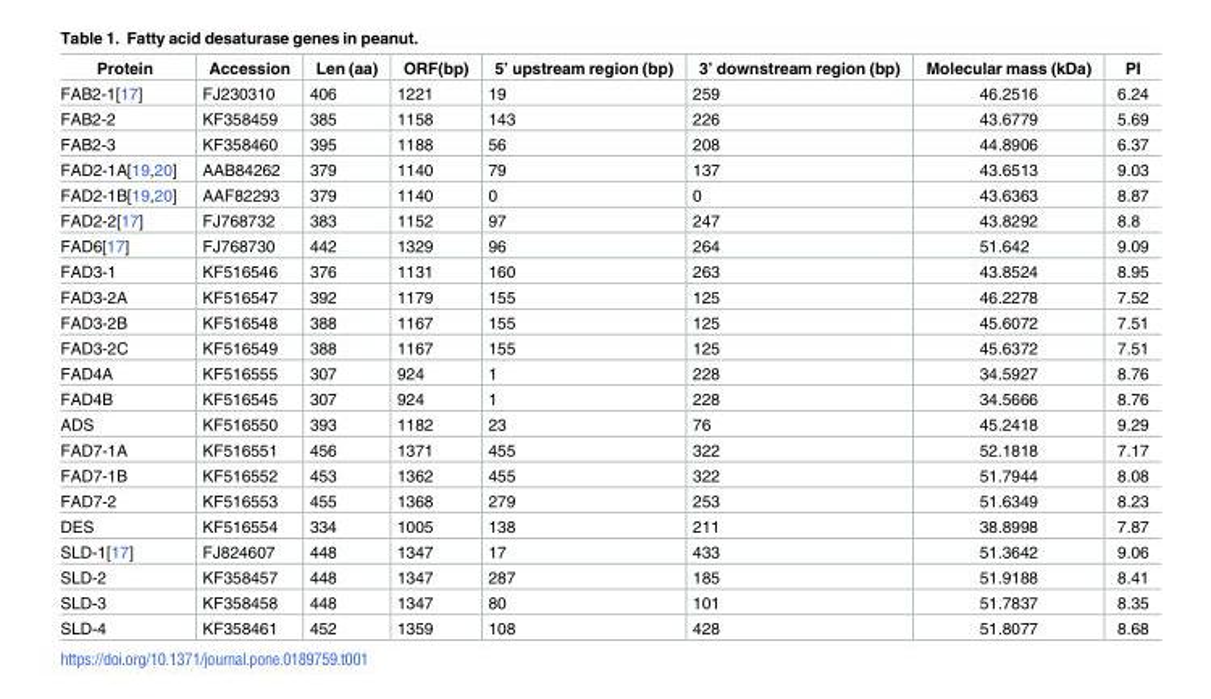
<table><thead><tr><td>Protein</td><td>Accession</td><td>Len (aa)</td><td>ORF(bp)</td><td>5’ upstream region (bp)</td><td>3’ downstream region (bp)</td><td>Molecular mass (kDa)</td><td>PI</td></tr></thead><tbody><tr><td>FAB2-1[17]</td><td>FJ230310</td><td>406</td><td>1221</td><td>19</td><td>259</td><td>46.2516</td><td>6.24</td></tr><tr><td>FAB2-2</td><td>KF358459</td><td>385</td><td>1158</td><td>143</td><td>226</td><td>43.6779</td><td>5.69</td></tr><tr><td>FAB2-3</td><td>KF358460</td><td>395</td><td>1188</td><td>56</td><td>208</td><td>44.8906</td><td>6.37</td></tr><tr><td>FAD2-1A[19,20]</td><td>AAB84262</td><td>379</td><td>1140</td><td>79</td><td>137</td><td>43.6513</td><td>9.03</td></tr><tr><td>FAD2-1B[19,20]</td><td>AAF82293</td><td>379</td><td>1140</td><td>0</td><td>0</td><td>43.6363</td><td>8.87</td></tr><tr><td>FAD2-2[17]</td><td>FJ768732</td><td>383</td><td>1152</td><td>97</td><td>247</td><td>43.8292</td><td>8.8</td></tr><tr><td>FAD6[17]</td><td>FJ768730</td><td>442</td><td>1329</td><td>96</td><td>264</td><td>51.642</td><td>9.09</td></tr><tr><td>FAD3-1</td><td>KF516546</td><td>376</td><td>1131</td><td>160</td><td>263</td><td>43.8524</td><td>8.95</td></tr><tr><td>FAD3-2A</td><td>KF516547</td><td>392</td><td>1179</td><td>155</td><td>125</td><td>46.2278</td><td>7.52</td></tr><tr><td>FAD3-2B</td><td>KF516548</td><td>388</td><td>1167</td><td>155</td><td>125</td><td>45.6072</td><td>7.51</td></tr><tr><td>FAD3-2C</td><td>KF516549</td><td>388</td><td>1167</td><td>155</td><td>125</td><td>45.6372</td><td>7.51</td></tr><tr><td>FAD4A</td><td>KF516555</td><td>307</td><td>924</td><td>1</td><td>228</td><td>34.5927</td><td>8.76</td></tr><tr><td>FAD4B</td><td>KF516545</td><td>307</td><td>924</td><td>1</td><td>228</td><td>34.5666</td><td>8.76</td></tr><tr><td>ADS</td><td>KF516550</td><td>393</td><td>1182</td><td>23</td><td>76</td><td>45.2418</td><td>9.29</td></tr><tr><td>FAD7-1A</td><td>KF516551</td><td>456</td><td>1371</td><td>455</td><td>322</td><td>52.1818</td><td>7.17</td></tr><tr><td>FAD7-1B</td><td>KF516552</td><td>453</td><td>1362</td><td>455</td><td>322</td><td>51.7944</td><td>8.08</td></tr><tr><td>FAD7-2</td><td>KF516553</td><td>455</td><td>1368</td><td>279</td><td>253</td><td>51.6349</td><td>8.23</td></tr><tr><td>DES</td><td>KF516554</td><td>334</td><td>1005</td><td>138</td><td>211</td><td>38.8998</td><td>7.87</td></tr><tr><td>SLD-1[17]</td><td>FJ824607</td><td>448</td><td>1347</td><td>17</td><td>433</td><td>51.3642</td><td>9.06</td></tr><tr><td>SLD-2</td><td>KF358457</td><td>448</td><td>1347</td><td>287</td><td>185</td><td>51.9188</td><td>8.41</td></tr><tr><td>SLD-3</td><td>KF358458</td><td>448</td><td>1347</td><td>80</td><td>101</td><td>51.7837</td><td>8.35</td></tr><tr><td>SLD-4</td><td>KF358461</td><td>452</td><td>1359</td><td>108</td><td>428</td><td>51.8077</td><td>8.68</td></tr></tbody></table>